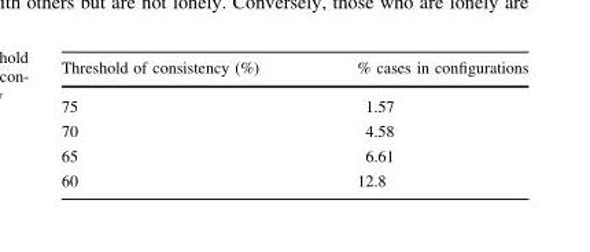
<table><thead><tr><td>Threshold of consistency (%)</td><td>% cases in configurations</td></tr></thead><tbody><tr><td>75</td><td>1.57</td></tr><tr><td>70</td><td>4.58</td></tr><tr><td>65</td><td>6.61</td></tr><tr><td>60</td><td>12.8</td></tr></tbody></table>